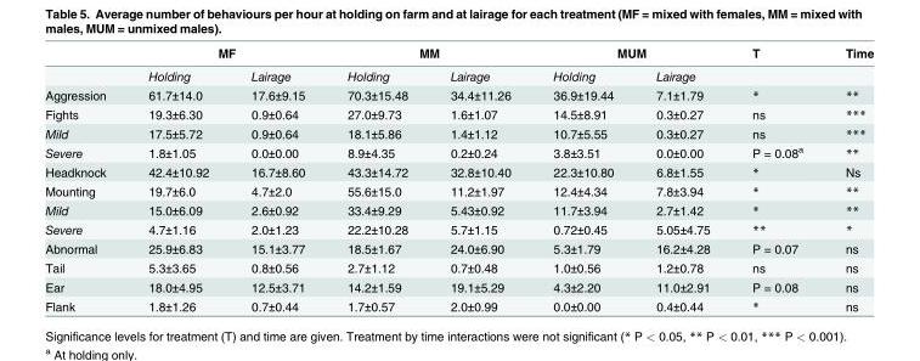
<table><thead><tr><td rowspan="2"></td><td colspan="2">MF</td><td colspan="2">MM</td><td colspan="2">MUM</td><td rowspan="2">T</td><td rowspan="2">Time</td></tr><tr><td>Holding</td><td>Lairage</td><td>Holding</td><td>Lairage</td><td>Holding</td><td>Lairage</td></tr></thead><tbody><tr><td>Aggression</td><td>61.7±14.0</td><td>17.6±9.15</td><td>70.3±15.48</td><td>34.4±11.26</td><td>36.9±19.44</td><td>7.1±1.79</td><td>*</td><td>**</td></tr><tr><td>Fights</td><td>19.3±6.30</td><td>0.9±0.64</td><td>27.0±9.73</td><td>1.6±1.07</td><td>14.5±8.91</td><td>0.3±0.27</td><td>ns</td><td>***</td></tr><tr><td>Mild</td><td>17.5±5.72</td><td>0.9±0.64</td><td>18.1±5.86</td><td>1.4±1.12</td><td>10.7±5.55</td><td>0.3±0.27</td><td>ns</td><td>***</td></tr><tr><td>Severe</td><td>1.8±1.05</td><td>0.0±0.00</td><td>8.9±4.35</td><td>0.2±0.24</td><td>3.8±3.51</td><td>0.0±0.00</td><td>P = 0.08<sup>a</sup></td><td>**</td></tr><tr><td>Headknock</td><td>42.4±10.92</td><td>16.7±8.60</td><td>43.3±14.72</td><td>32.8±10.40</td><td>22.3±10.80</td><td>6.8±1.55</td><td>*</td><td>Ns</td></tr><tr><td>Mounting</td><td>19.7±6.0</td><td>4.7±2.0</td><td>55.6±15.0</td><td>11.2±1.97</td><td>12.4±4.34</td><td>7.8±3.94</td><td>*</td><td>**</td></tr><tr><td>Mild</td><td>15.0±6.09</td><td>2.6±0.92</td><td>33.4±9.29</td><td>5.43±0.92</td><td>11.7±3.94</td><td>2.7±1.42</td><td>*</td><td>**</td></tr><tr><td>Severe</td><td>4.7±1.16</td><td>2.0±1.23</td><td>22.2±10.28</td><td>5.7±1.15</td><td>0.72±0.45</td><td>5.05±4.75</td><td>**</td><td>*</td></tr><tr><td>Abnormal</td><td>25.9±6.83</td><td>15.1±3.77</td><td>18.5±1.67</td><td>24.0±6.90</td><td>5.3±1.79</td><td>16.2±4.28</td><td>P = 0.07</td><td>ns</td></tr><tr><td>Tail</td><td>5.3±3.65</td><td>0.8±0.56</td><td>2.7±1.12</td><td>0.7±0.48</td><td>1.0±0.56</td><td>1.2±0.78</td><td>ns</td><td>ns</td></tr><tr><td>Ear</td><td>18.0±4.95</td><td>12.5±3.71</td><td>14.2±1.59</td><td>19.1±5.29</td><td>4.3±2.20</td><td>11.0±2.91</td><td>P = 0.08</td><td>ns</td></tr><tr><td>Flank</td><td>1.8±1.26</td><td>0.7±0.44</td><td>1.7±0.57</td><td>2.0±0.99</td><td>0.0±0.00</td><td>0.4±0.44</td><td>*</td><td>ns</td></tr></tbody></table>